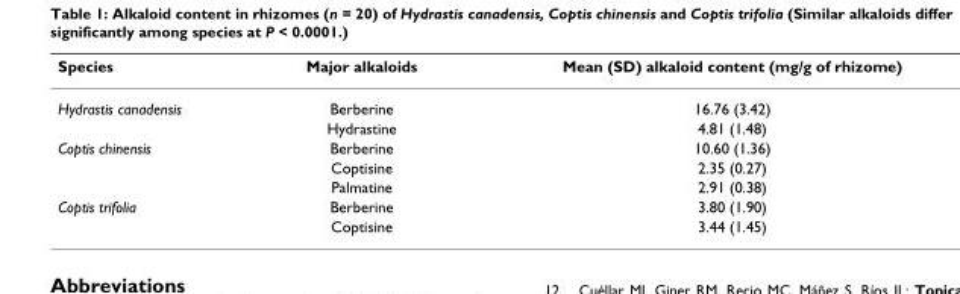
<table><thead><tr><td>Species</td><td>Major alkaloids</td><td>Mean (SD) alkaloid content (mg/g of rhizome)</td></tr></thead><tbody><tr><td rowspan="2">Hydrastis canadensis</td><td>Berberine</td><td>16.76 (3.42)</td></tr><tr><td>Hydrastine</td><td>4.81 (1.48)</td></tr><tr><td rowspan="3">Coptis chinensis</td><td>Berberine</td><td>10.60 (1.36)</td></tr><tr><td>Coptisine</td><td>2.35 (0.27)</td></tr><tr><td>Palmatine</td><td>2.91 (0.38)</td></tr><tr><td rowspan="2">Coptis trifolia</td><td>Berberine</td><td>3.80 (1.90)</td></tr><tr><td>Coptisine</td><td>3.44 (1.45)</td></tr></tbody></table>